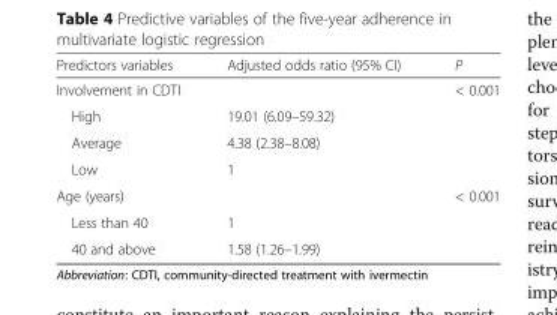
<table><thead><tr><td>Predictors variables</td><td>Adjusted odds ratio (95% CI)</td><td>P</td></tr></thead><tbody><tr><td colspan="2">Involvement in CDTI</td><td>&lt; 0.001</td></tr><tr><td>High</td><td>19.01 (6.09–59.32)</td><td></td></tr><tr><td>Average</td><td>4.38 (2.38–8.08)</td><td></td></tr><tr><td>Low</td><td>1</td><td></td></tr><tr><td colspan="2">Age (years)</td><td>&lt; 0.001</td></tr><tr><td>Less than 40</td><td>1</td><td></td></tr><tr><td>40 and above</td><td>1.58 (1.26–1.99)</td><td></td></tr></tbody></table>